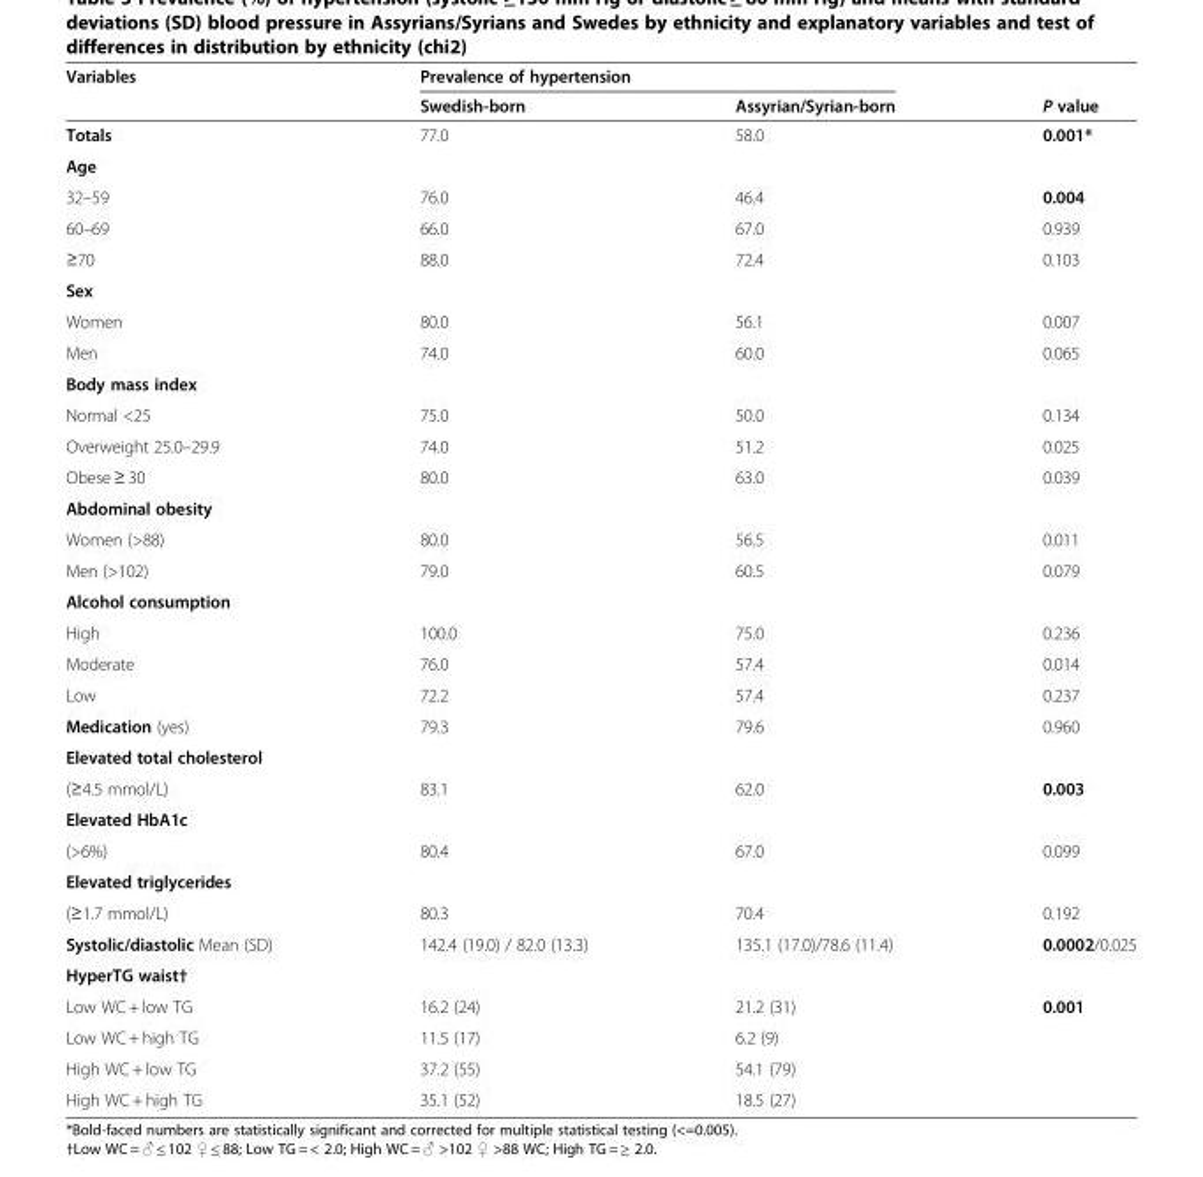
<table><thead><tr><td rowspan="2">Variables</td><td colspan="2">Prevalence of hypertension</td><td rowspan="2">P value</td></tr><tr><td>Swedish-born</td><td>Assyrian/Syrian-born</td></tr></thead><tbody><tr><td>Totals</td><td>77.0</td><td>58.0</td><td>0.001*</td></tr><tr><td colspan="4">Age</td></tr><tr><td>32–59</td><td>76.0</td><td>46.4</td><td>0.004</td></tr><tr><td>60–69</td><td>66.0</td><td>67.0</td><td>0.939</td></tr><tr><td>≥70</td><td>88.0</td><td>72.4</td><td>0.103</td></tr><tr><td colspan="4">Sex</td></tr><tr><td>Women</td><td>80.0</td><td>56.1</td><td>0.007</td></tr><tr><td>Men</td><td>74.0</td><td>60.0</td><td>0.065</td></tr><tr><td colspan="4">Body mass index</td></tr><tr><td>Normal &lt;25</td><td>75.0</td><td>50.0</td><td>0.134</td></tr><tr><td>Overweight 25.0–29.9</td><td>74.0</td><td>51.2</td><td>0.025</td></tr><tr><td>Obese ≥ 30</td><td>80.0</td><td>63.0</td><td>0.039</td></tr><tr><td colspan="4">Abdominal obesity</td></tr><tr><td>Women (&gt;88)</td><td>80.0</td><td>56.5</td><td>0.011</td></tr><tr><td>Men (&gt;102)</td><td>79.0</td><td>60.5</td><td>0.079</td></tr><tr><td colspan="4">Alcohol consumption</td></tr><tr><td>High</td><td>100.0</td><td>75.0</td><td>0.236</td></tr><tr><td>Moderate</td><td>76.0</td><td>57.4</td><td>0.014</td></tr><tr><td>Low</td><td>72.2</td><td>57.4</td><td>0.237</td></tr><tr><td>Medication (yes)</td><td>79.3</td><td>79.6</td><td>0.960</td></tr><tr><td colspan="4">Elevated total cholesterol</td></tr><tr><td>(≥4.5 mmol/L)</td><td>83.1</td><td>62.0</td><td>0.003</td></tr><tr><td colspan="4">Elevated HbA1c</td></tr><tr><td>(&gt;6%)</td><td>80.4</td><td>67.0</td><td>0.099</td></tr><tr><td colspan="4">Elevated triglycerides</td></tr><tr><td>(≥1.7 mmol/L)</td><td>80.3</td><td>70.4</td><td>0.192</td></tr><tr><td>Systolic/diastolic Mean (SD)</td><td>142.4 (19.0) / 82.0 (13.3)</td><td>135.1 (17.0)/78.6 (11.4)</td><td>0.0002/0.025</td></tr><tr><td colspan="4">HyperTG waist†</td></tr><tr><td>Low WC + low TG</td><td>16.2 (24)</td><td>21.2 (31)</td><td>0.001</td></tr><tr><td>Low WC + high TG</td><td>11.5 (17)</td><td>6.2 (9)</td><td></td></tr><tr><td>High WC + low TG</td><td>37.2 (55)</td><td>54.1 (79)</td><td></td></tr><tr><td>High WC + high TG</td><td>35.1 (52)</td><td>18.5 (27)</td><td></td></tr></tbody></table>